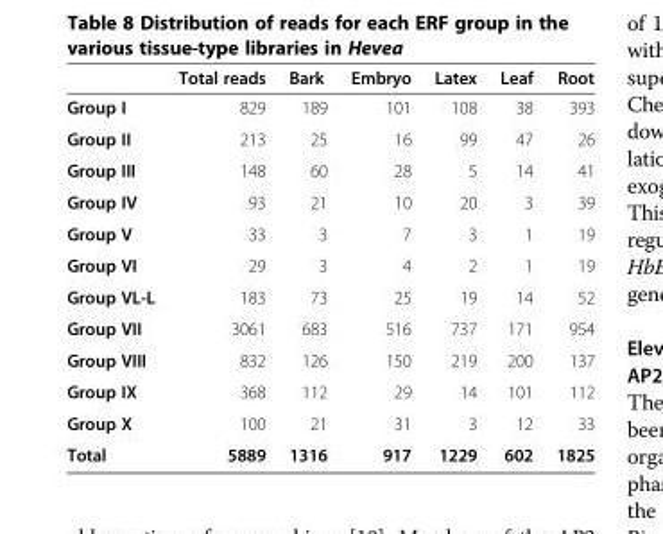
<table><thead><tr><td></td><td>Total reads</td><td>Bark</td><td>Embryo</td><td>Latex</td><td>Leaf</td><td>Root</td></tr></thead><tbody><tr><td>Group I</td><td>829</td><td>189</td><td>101</td><td>108</td><td>38</td><td>393</td></tr><tr><td>Group II</td><td>213</td><td>25</td><td>16</td><td>99</td><td>47</td><td>26</td></tr><tr><td>Group III</td><td>148</td><td>60</td><td>28</td><td>5</td><td>14</td><td>41</td></tr><tr><td>Group IV</td><td>93</td><td>21</td><td>10</td><td>20</td><td>3</td><td>39</td></tr><tr><td>Group V</td><td>33</td><td>3</td><td>7</td><td>3</td><td>1</td><td>19</td></tr><tr><td>Group VI</td><td>29</td><td>3</td><td>4</td><td>2</td><td>1</td><td>19</td></tr><tr><td>Group VL-L</td><td>183</td><td>73</td><td>25</td><td>19</td><td>14</td><td>52</td></tr><tr><td>Group VII</td><td>3061</td><td>683</td><td>516</td><td>737</td><td>171</td><td>954</td></tr><tr><td>Group VIII</td><td>832</td><td>126</td><td>150</td><td>219</td><td>200</td><td>137</td></tr><tr><td>Group IX</td><td>368</td><td>112</td><td>29</td><td>14</td><td>101</td><td>112</td></tr><tr><td>Group X</td><td>100</td><td>21</td><td>31</td><td>3</td><td>12</td><td>33</td></tr><tr><td>Total</td><td>5889</td><td>1316</td><td>917</td><td>1229</td><td>602</td><td>1825</td></tr></tbody></table>